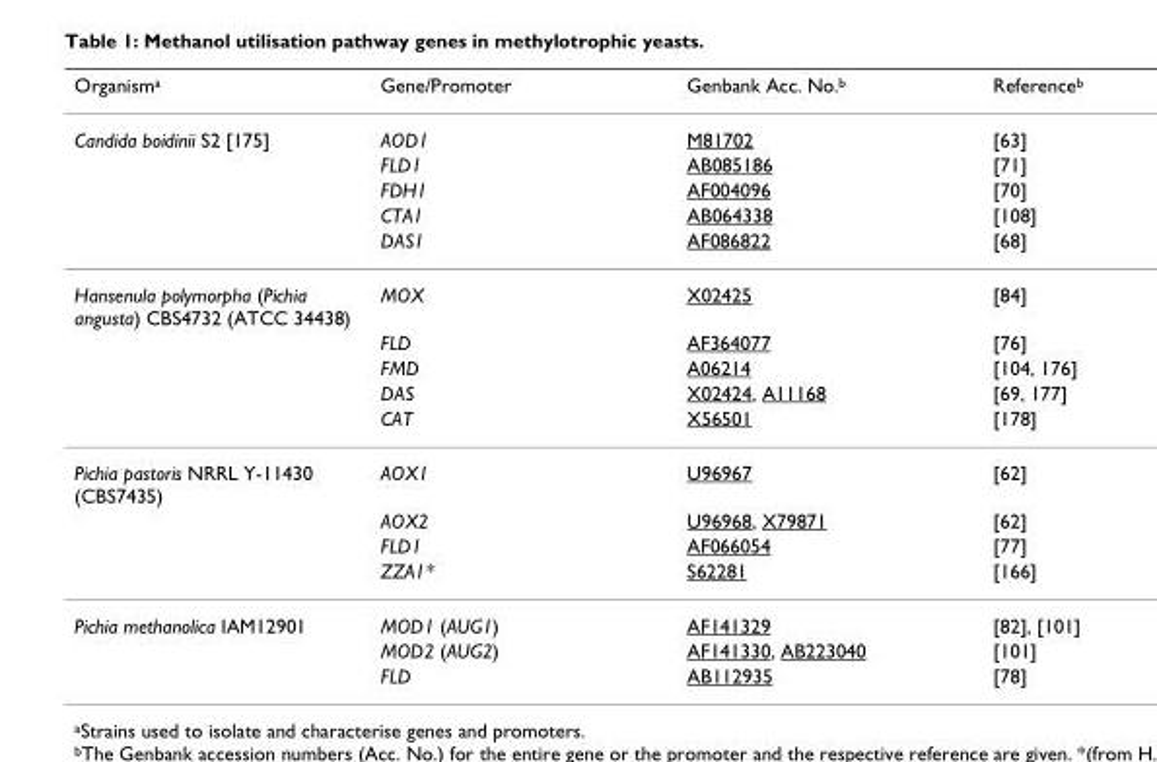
<table><thead><tr><td>Organism<sup>a</sup></td><td>Gene/Promoter</td><td>Genbank Acc. No.<sup>b</sup></td><td>Reference<sup>b</sup></td></tr></thead><tbody><tr><td rowspan="5">Candida boidinii S2 [175]</td><td>AOD1</td><td>M81702</td><td>[63]</td></tr><tr><td>FLD1</td><td>AB085186</td><td>[71]</td></tr><tr><td>FDH1</td><td>AF004096</td><td>[70]</td></tr><tr><td>CTA1</td><td>AB064338</td><td>[108]</td></tr><tr><td>DAS1</td><td>AF086822</td><td>[68]</td></tr><tr><td rowspan="5">Hansenula polymorpha (Pichia angusta) CBS4732 (ATCC 34438)</td><td>MOX</td><td>X02425</td><td>[84]</td></tr><tr><td>FLD</td><td>AF364077</td><td>[76]</td></tr><tr><td>FMD</td><td>A06214</td><td>[104, 176]</td></tr><tr><td>DAS</td><td>X02424, A11168</td><td>[69, 177]</td></tr><tr><td>CAT</td><td>X56501</td><td>[178]</td></tr><tr><td rowspan="4">Pichia pastoris NRRL Y-11430 (CBS7435)</td><td>AOX1</td><td>U96967</td><td>[62]</td></tr><tr><td>AOX2</td><td>U96968, X79871</td><td>[62]</td></tr><tr><td>FLD1</td><td>AF066054</td><td>[77]</td></tr><tr><td>ZZA1*</td><td>S62281</td><td>[166]</td></tr><tr><td rowspan="3">Pichia methanolica IAM12901</td><td>MOD1 (AUG1)</td><td>AF141329</td><td>[82], [101]</td></tr><tr><td>MOD2 (AUG2)</td><td>AF141330, AB223040</td><td>[101]</td></tr><tr><td>FLD</td><td>AB112935</td><td>[78]</td></tr></tbody></table>